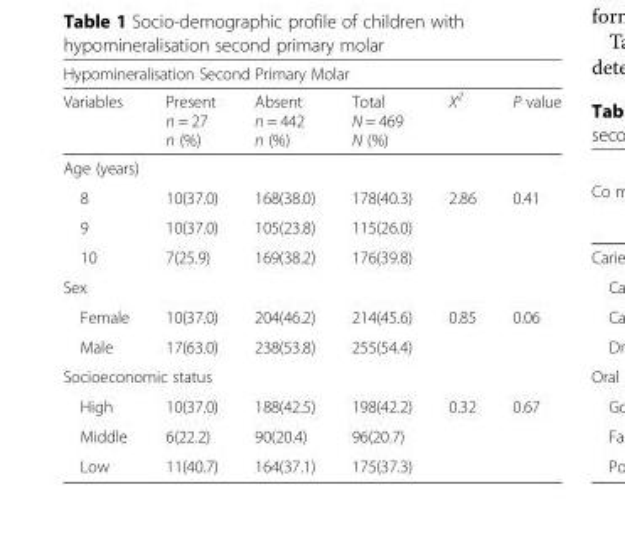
<table><thead><tr><td colspan="6">Hypomineralisation Second Primary Molar</td></tr><tr><td>Variables</td><td>Present n = 27 n (%)</td><td>Absent n = 442 n (%)</td><td>Total N = 469 N (%)</td><td>X<sup>2</sup></td><td>P value</td></tr></thead><tbody><tr><td colspan="6">Age (years)</td></tr><tr><td>8</td><td>10(37.0)</td><td>168(38.0)</td><td>178(40.3)</td><td>2.86</td><td rowspan="3">0.41</td></tr><tr><td>9</td><td>10(37.0)</td><td>105(23.8)</td><td>115(26.0)</td><td></td></tr><tr><td>10</td><td>7(25.9)</td><td>169(38.2)</td><td>176(39.8)</td><td></td></tr><tr><td colspan="6">Sex</td></tr><tr><td>Female</td><td>10(37.0)</td><td>204(46.2)</td><td>214(45.6)</td><td>0.85</td><td rowspan="2">0.06</td></tr><tr><td>Male</td><td>17(63.0)</td><td>238(53.8)</td><td>255(54.4)</td><td></td></tr><tr><td colspan="6">Socioeconomic status</td></tr><tr><td>High</td><td>10(37.0)</td><td>188(42.5)</td><td>198(42.2)</td><td>0.32</td><td rowspan="3">0.67</td></tr><tr><td>Middle</td><td>6(22.2)</td><td>90(20.4)</td><td>96(20.7)</td><td></td></tr><tr><td>Low</td><td>11(40.7)</td><td>164(37.1)</td><td>175(37.3)</td><td></td></tr></tbody></table>